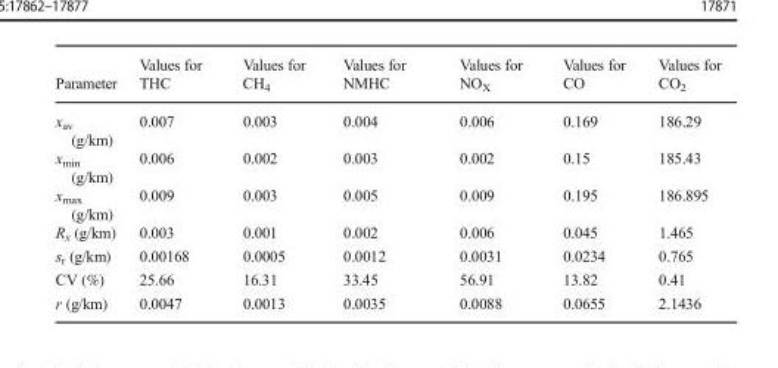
<table><thead><tr><td>Parameter</td><td>Values for THC</td><td>Values for CH<sub>4</sub></td><td>Values for NMHC</td><td>Values for NO<sub>X</sub></td><td>Values for CO</td><td>Values for CO<sub>2</sub></td></tr></thead><tbody><tr><td>x<sub>av</sub> (g/km)</td><td>0.007</td><td>0.003</td><td>0.004</td><td>0.006</td><td>0.169</td><td>186.29</td></tr><tr><td>x<sub>min</sub> (g/km)</td><td>0.006</td><td>0.002</td><td>0.003</td><td>0.002</td><td>0.15</td><td>185.43</td></tr><tr><td>x<sub>max</sub> (g/km)</td><td>0.009</td><td>0.003</td><td>0.005</td><td>0.009</td><td>0.195</td><td>186.895</td></tr><tr><td>R<sub>x</sub> (g/km)</td><td>0.003</td><td>0.001</td><td>0.002</td><td>0.006</td><td>0.045</td><td>1.465</td></tr><tr><td>s<sub>r</sub> (g/km)</td><td>0.00168</td><td>0.0005</td><td>0.0012</td><td>0.0031</td><td>0.0234</td><td>0.765</td></tr><tr><td>CV (%)</td><td>25.66</td><td>16.31</td><td>33.45</td><td>56.91</td><td>13.82</td><td>0.41</td></tr><tr><td>r (g/km)</td><td>0.0047</td><td>0.0013</td><td>0.0035</td><td>0.0088</td><td>0.0655</td><td>2.1436</td></tr></tbody></table>